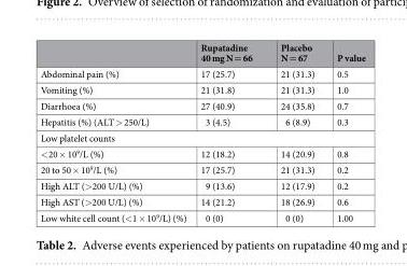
<table><thead><tr><td></td><td>Rupatadine 40 mg N = 66</td><td>Placebo N = 67</td><td>P value</td></tr></thead><tbody><tr><td>Abdominal pain (%)</td><td>17 (25.7)</td><td>21 (31.3)</td><td>0.5</td></tr><tr><td>Vomiting (%)</td><td>21 (31.8)</td><td>21 (31.3)</td><td>1.0</td></tr><tr><td>Diarrhoea (%)</td><td>27 (40.9)</td><td>24 (35.8)</td><td>0.7</td></tr><tr><td>Hepatitis (%) (ALT &gt; 250/L)</td><td>3 (4.5)</td><td>6 (8.9)</td><td>0.3</td></tr><tr><td colspan="4">Low platelet counts</td></tr><tr><td>&lt;20 × 10<sup>9</sup>/L (%)</td><td>12 (18.2)</td><td>14 (20.9)</td><td>0.8</td></tr><tr><td>20 to 50 × 10<sup>9</sup>/L (%)</td><td>17 (25.7)</td><td>21 (31.3)</td><td>0.2</td></tr><tr><td>High ALT (&gt;200 U/L) (%)</td><td>9 (13.6)</td><td>12 (17.9)</td><td>0.2</td></tr><tr><td>High AST (&gt;200 U/L) (%)</td><td>14 (21.2)</td><td>18 (26.9)</td><td>0.6</td></tr><tr><td>Low white cell count (&lt;1 × 10<sup>9</sup>/L) (%)</td><td>0 (0)</td><td>0 (0)</td><td>1.00</td></tr></tbody></table>